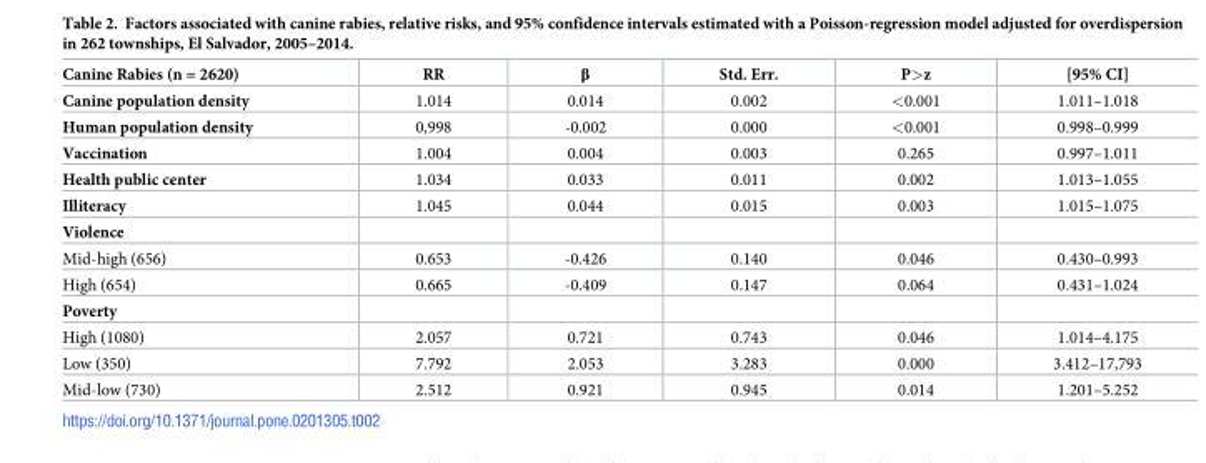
<table><thead><tr><td>Canine Rabies (n = 2620)</td><td>RR</td><td>β</td><td>Std. Err.</td><td>P&gt;z</td><td>[95% CI]</td></tr></thead><tbody><tr><td>Canine population density</td><td>1.014</td><td>0.014</td><td>0.002</td><td>&lt;0.001</td><td>1.011–1.018</td></tr><tr><td>Human population density</td><td>0,998</td><td>-0.002</td><td>0.000</td><td>&lt;0.001</td><td>0.998–0.999</td></tr><tr><td>Vaccination</td><td>1.004</td><td>0.004</td><td>0.003</td><td>0.265</td><td>0.997–1.011</td></tr><tr><td>Health public center</td><td>1.034</td><td>0.033</td><td>0.011</td><td>0.002</td><td>1.013–1.055</td></tr><tr><td>Illiteracy</td><td>1.045</td><td>0.044</td><td>0.015</td><td>0.003</td><td>1.015–1.075</td></tr><tr><td colspan="6">Violence</td></tr><tr><td>Mid-high (656)</td><td>0.653</td><td>-0.426</td><td>0.140</td><td>0.046</td><td>0.430–0.993</td></tr><tr><td>High (654)</td><td>0.665</td><td>-0.409</td><td>0.147</td><td>0.064</td><td>0.431–1.024</td></tr><tr><td colspan="6">Poverty</td></tr><tr><td>High (1080)</td><td>2.057</td><td>0.721</td><td>0.743</td><td>0.046</td><td>1.014–4.175</td></tr><tr><td>Low (350)</td><td>7.792</td><td>2.053</td><td>3.283</td><td>0.000</td><td>3.412–17,793</td></tr><tr><td>Mid-low (730)</td><td>2.512</td><td>0.921</td><td>0.945</td><td>0.014</td><td>1.201–5.252</td></tr></tbody></table>